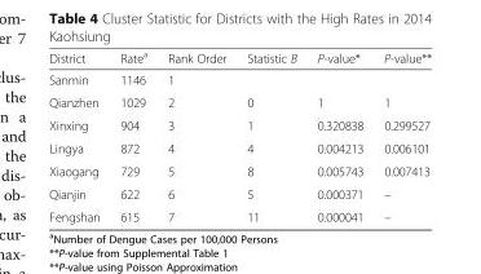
<table><thead><tr><td>District</td><td>Rate<sup>a</sup></td><td>Rank Order</td><td>Statistic B</td><td>P-value*</td><td>P-value**</td></tr></thead><tbody><tr><td>Sanmin</td><td>1146</td><td>1</td><td></td><td></td><td></td></tr><tr><td>Qianzhen</td><td>1029</td><td>2</td><td>0</td><td>1</td><td>1</td></tr><tr><td>Xinxing</td><td>904</td><td>3</td><td>1</td><td>0.320838</td><td>0.299527</td></tr><tr><td>Lingya</td><td>872</td><td>4</td><td>4</td><td>0.004213</td><td>0.006101</td></tr><tr><td>Xiaogang</td><td>729</td><td>5</td><td>8</td><td>0.005743</td><td>0.007413</td></tr><tr><td>Qianjin</td><td>622</td><td>6</td><td>5</td><td>0.000371</td><td>–</td></tr><tr><td>Fengshan</td><td>615</td><td>7</td><td>11</td><td>0.000041</td><td>–</td></tr></tbody></table>